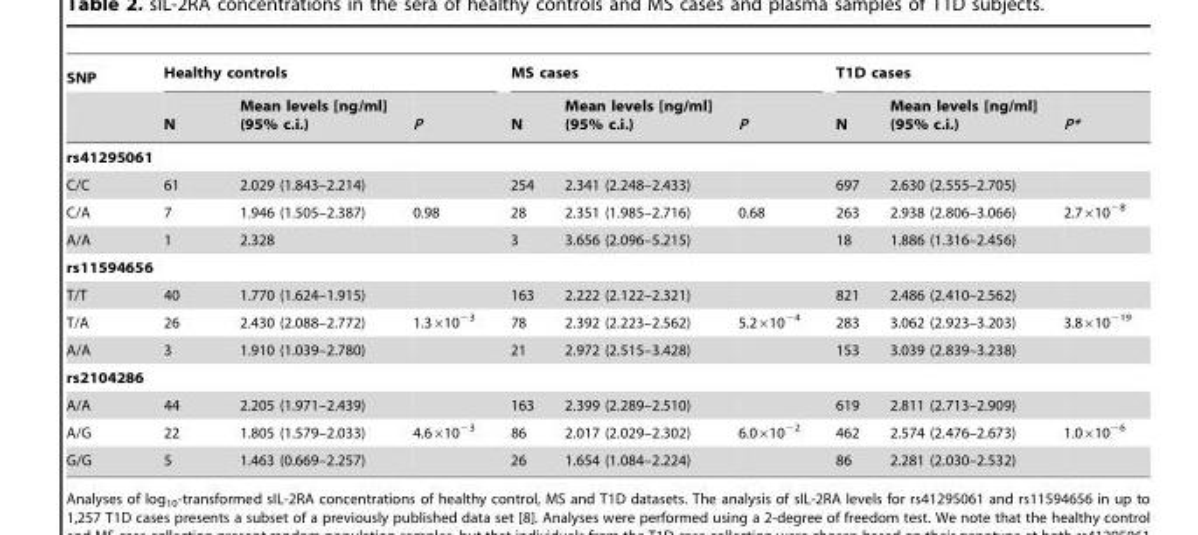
<table><thead><tr><td rowspan="2">SNP</td><td colspan="3">Healthy controls</td><td colspan="3">MS cases</td><td colspan="3">T1D cases</td></tr><tr><td>N</td><td>Mean levels [ng/ml] (95% c.i.)</td><td>P</td><td>N</td><td>Mean levels [ng/ml] (95% c.i.)</td><td>P</td><td>N</td><td>Mean levels [ng/ml] (95% c.i.)</td><td>P*</td></tr></thead><tbody><tr><td colspan="10">rs41295061</td></tr><tr><td>C/C</td><td>61</td><td>2.029 (1.843–2.214)</td><td></td><td>254</td><td>2.341 (2.248–2.433)</td><td></td><td>697</td><td>2.630 (2.555–2.705)</td><td></td></tr><tr><td>C/A</td><td>7</td><td>1.946 (1.505–2.387)</td><td>0.98</td><td>28</td><td>2.351 (1.985–2.716)</td><td>0.68</td><td>263</td><td>2.938 (2.806–3.066)</td><td>2.7×10<sup>−8</sup></td></tr><tr><td>A/A</td><td>1</td><td>2.328</td><td></td><td>3</td><td>3.656 (2.096–5.215)</td><td></td><td>18</td><td>1.886 (1.316–2.456)</td><td></td></tr><tr><td colspan="10">rs11594656</td></tr><tr><td>T/T</td><td>40</td><td>1.770 (1.624–1.915)</td><td></td><td>163</td><td>2.222 (2.122–2.321)</td><td></td><td>821</td><td>2.486 (2.410–2.562)</td><td></td></tr><tr><td>T/A</td><td>26</td><td>2.430 (2.088–2.772)</td><td>1.3×10<sup>−3</sup></td><td>78</td><td>2.392 (2.223–2.562)</td><td>5.2×10<sup>−4</sup></td><td>283</td><td>3.062 (2.923–3.203)</td><td>3.8×10<sup>−19</sup></td></tr><tr><td>A/A</td><td>3</td><td>1.910 (1.039–2.780)</td><td></td><td>21</td><td>2.972 (2.515–3.428)</td><td></td><td>153</td><td>3.039 (2.839–3.238)</td><td></td></tr><tr><td colspan="10">rs2104286</td></tr><tr><td>A/A</td><td>44</td><td>2.205 (1.971–2.439)</td><td></td><td>163</td><td>2.399 (2.289–2.510)</td><td></td><td>619</td><td>2.811 (2.713–2.909)</td><td></td></tr><tr><td>A/G</td><td>22</td><td>1.805 (1.579–2.033)</td><td>4.6×10<sup>−3</sup></td><td>86</td><td>2.017 (2.029–2.302)</td><td>6.0×10<sup>−2</sup></td><td>462</td><td>2.574 (2.476–2.673)</td><td>1.0×10<sup>−6</sup></td></tr><tr><td>G/G</td><td>5</td><td>1.463 (0.669–2.257)</td><td></td><td>26</td><td>1.654 (1.084–2.224)</td><td></td><td>86</td><td>2.281 (2.030–2.532)</td><td></td></tr></tbody></table>